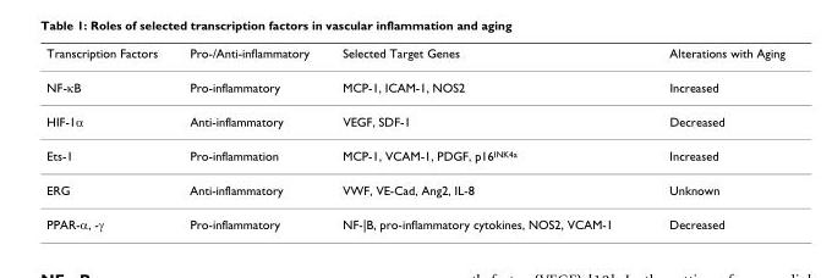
<table><thead><tr><td>Transcription Factors</td><td>Pro-/Anti-inflammatory</td><td>Selected Target Genes</td><td>Alterations with Aging</td></tr></thead><tbody><tr><td>NF-κB</td><td>Pro-inflammatory</td><td>MCP-1, ICAM-1, NOS2</td><td>Increased</td></tr><tr><td>HIF-1α</td><td>Anti-inflammatory</td><td>VEGF, SDF-1</td><td>Decreased</td></tr><tr><td>Ets-1</td><td>Pro-inflammation</td><td>MCP-1, VCAM-1, PDGF, p16<sup>INK4a</sup></td><td>Increased</td></tr><tr><td>ERG</td><td>Anti-inflammatory</td><td>VWF, VE-Cad, Ang2, IL-8</td><td>Unknown</td></tr><tr><td>PPAR-α, -γ</td><td>Pro-inflammatory</td><td>NF-|B, pro-inflammatory cytokines, NOS2, VCAM-1</td><td>Decreased</td></tr></tbody></table>